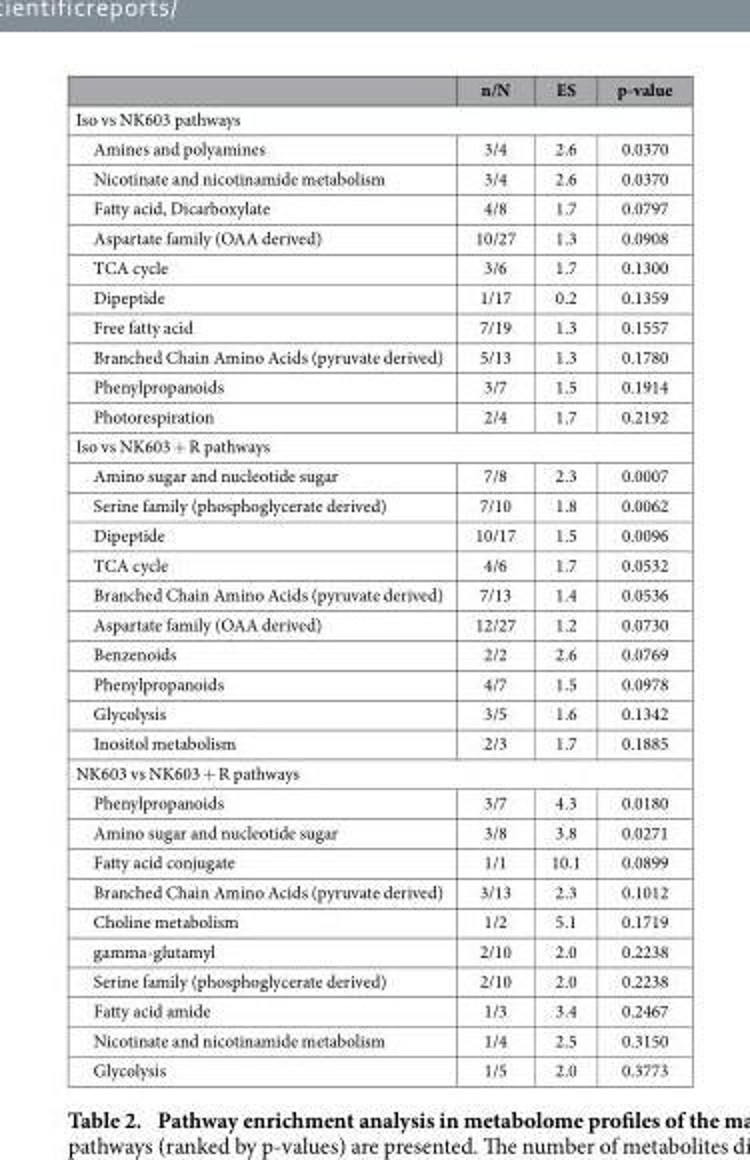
<table><thead><tr><td></td><td>n/N</td><td>ES</td><td>p-value</td></tr></thead><tbody><tr><td colspan="4">Iso vs NK603 pathways</td></tr><tr><td>Amines and polyamines</td><td>3/4</td><td>2.6</td><td>0.0370</td></tr><tr><td>Nicotinate and nicotinamide metabolism</td><td>3/4</td><td>2.6</td><td>0.0370</td></tr><tr><td>Fatty acid, Dicarboxylate</td><td>4/8</td><td>1.7</td><td>0.0797</td></tr><tr><td>Aspartate family (OAA derived)</td><td>10/27</td><td>1.3</td><td>0.0908</td></tr><tr><td>TCA cycle</td><td>3/6</td><td>1.7</td><td>0.1300</td></tr><tr><td>Dipeptide</td><td>1/17</td><td>0.2</td><td>0.1359</td></tr><tr><td>Free fatty acid</td><td>7/19</td><td>1.3</td><td>0.1557</td></tr><tr><td>Branched Chain Amino Acids (pyruvate derived)</td><td>5/13</td><td>1.3</td><td>0.1780</td></tr><tr><td>Phenylpropanoids</td><td>3/7</td><td>1.5</td><td>0.1914</td></tr><tr><td>Photorespiration</td><td>2/4</td><td>1.7</td><td>0.2192</td></tr><tr><td colspan="4">Iso vs NK603 + R pathways</td></tr><tr><td>Amino sugar and nucleotide sugar</td><td>7/8</td><td>2.3</td><td>0.0007</td></tr><tr><td>Serine family (phosphoglycerate derived)</td><td>7/10</td><td>1.8</td><td>0.0062</td></tr><tr><td>Dipeptide</td><td>10/17</td><td>1.5</td><td>0.0096</td></tr><tr><td>TCA cycle</td><td>4/6</td><td>1.7</td><td>0.0532</td></tr><tr><td>Branched Chain Amino Acids (pyruvate derived)</td><td>7/13</td><td>1.4</td><td>0.0536</td></tr><tr><td>Aspartate family (OAA derived)</td><td>12/27</td><td>1.2</td><td>0.0730</td></tr><tr><td>Benzenoids</td><td>2/2</td><td>2.6</td><td>0.0769</td></tr><tr><td>Phenylpropanoids</td><td>4/7</td><td>1.5</td><td>0.0978</td></tr><tr><td>Glycolysis</td><td>3/5</td><td>1.6</td><td>0.1342</td></tr><tr><td>Inositol metabolism</td><td>2/3</td><td>1.7</td><td>0.1885</td></tr><tr><td colspan="4">NK603 vs NK603 + R pathways</td></tr><tr><td>Phenylpropanoids</td><td>3/7</td><td>4.3</td><td>0.0180</td></tr><tr><td>Amino sugar and nucleotide sugar</td><td>3/8</td><td>3.8</td><td>0.0271</td></tr><tr><td>Fatty acid conjugate</td><td>1/1</td><td>10.1</td><td>0.0899</td></tr><tr><td>Branched Chain Amino Acids (pyruvate derived)</td><td>3/13</td><td>2.3</td><td>0.1012</td></tr><tr><td>Choline metabolism</td><td>1/2</td><td>5.1</td><td>0.1719</td></tr><tr><td>gamma-glutamyl</td><td>2/10</td><td>2.0</td><td>0.2238</td></tr><tr><td>Serine family (phosphoglycerate derived)</td><td>2/10</td><td>2.0</td><td>0.2238</td></tr><tr><td>Fatty acid amide</td><td>1/3</td><td>3.4</td><td>0.2467</td></tr><tr><td>Nicotinate and nicotinamide metabolism</td><td>1/4</td><td>2.5</td><td>0.3150</td></tr><tr><td>Glycolysis</td><td>1/5</td><td>2.0</td><td>0.3773</td></tr></tbody></table>